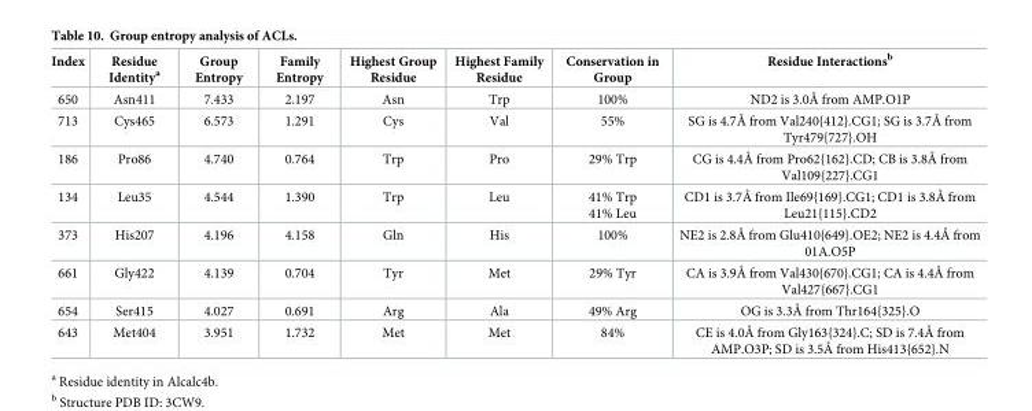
<table><thead><tr><td>Index</td><td>Residue Identity<sup>a</sup></td><td>Group Entropy</td><td>Family Entropy</td><td>Highest Group Residue</td><td>Highest Family Residue</td><td>Conservation in Group</td><td>Residue Interactions<sup>b</sup></td></tr></thead><tbody><tr><td>650</td><td>Asn411</td><td>7.433</td><td>2.197</td><td>Asn</td><td>Trp</td><td>100%</td><td>ND2 is 3.0Å from AMP.O1P</td></tr><tr><td>713</td><td>Cys465</td><td>6.573</td><td>1.291</td><td>Cys</td><td>Val</td><td>55%</td><td>SG is 4.7Å from Val240{412}.CG1; SG is 3.7Å from Tyr479{727}.OH</td></tr><tr><td>186</td><td>Pro86</td><td>4.740</td><td>0.764</td><td>Trp</td><td>Pro</td><td>29% Trp</td><td>CG is 4.4Å from Pro62{162}.CD; CB is 3.8Å from Val109{227}.CG1</td></tr><tr><td>134</td><td>Leu35</td><td>4.544</td><td>1.390</td><td>Trp</td><td>Leu</td><td>41% Trp 41% Leu</td><td>CD1 is 3.7Å from Ile69{169}.CG1; CD1 is 3.8Å from Leu21{115}.CD2</td></tr><tr><td>373</td><td>His207</td><td>4.196</td><td>4.158</td><td>Gln</td><td>His</td><td>100%</td><td>NE2 is 2.8Å from Glu410{649}.OE2; NE2 is 4.4Å from 01A.O5P</td></tr><tr><td>661</td><td>Gly422</td><td>4.139</td><td>0.704</td><td>Tyr</td><td>Met</td><td>29% Tyr</td><td>CA is 3.9Å from Val430{670}.CG1; CA is 4.4Å from Val427{667}.CG1</td></tr><tr><td>654</td><td>Ser415</td><td>4.027</td><td>0.691</td><td>Arg</td><td>Ala</td><td>49% Arg</td><td>OG is 3.3Å from Thr164{325}.O</td></tr><tr><td>643</td><td>Met404</td><td>3.951</td><td>1.732</td><td>Met</td><td>Met</td><td>84%</td><td>CE is 4.0Å from Gly163{324}.C; SD is 7.4Å from AMP.O3P; SD is 3.5Å from His413{652}.N</td></tr></tbody></table>